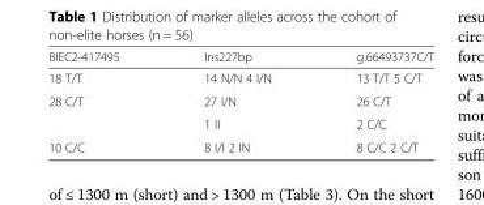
<table><thead><tr><td>BIEC2-417495</td><td>Ins227bp</td><td>g.66493737C/T</td></tr></thead><tbody><tr><td>18 T/T</td><td>14 N/N 4 I/N</td><td>13 T/T 5 C/T</td></tr><tr><td rowspan="2">28 C/T</td><td>27 I/N</td><td>26 C/T</td></tr><tr><td>1 II</td><td>2 C/C</td></tr><tr><td>10 C/C</td><td>8 I/I 2 IN</td><td>8 C/C 2 C/T</td></tr></tbody></table>